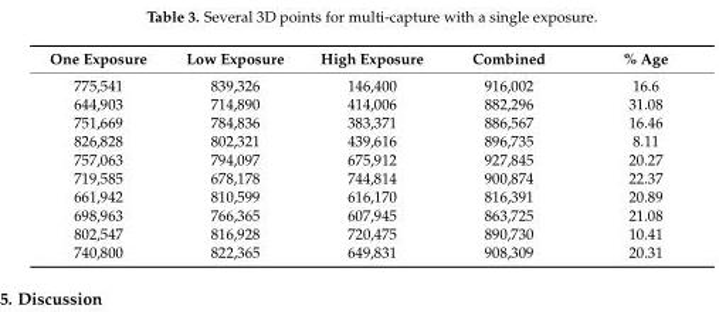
<table><thead><tr><td>One Exposure</td><td>Low Exposure</td><td>High Exposure</td><td>Combined</td><td>% Age</td></tr></thead><tbody><tr><td>775,541</td><td>839,326</td><td>146,400</td><td>916,002</td><td>16.6</td></tr><tr><td>644,903</td><td>714,890</td><td>414,006</td><td>882,296</td><td>31.08</td></tr><tr><td>751,669</td><td>784,836</td><td>383,371</td><td>886,567</td><td>16.46</td></tr><tr><td>826,828</td><td>802,321</td><td>439,616</td><td>896,735</td><td>8.11</td></tr><tr><td>757,063</td><td>794,097</td><td>675,912</td><td>927,845</td><td>20.27</td></tr><tr><td>719,585</td><td>678,178</td><td>744,814</td><td>900,874</td><td>22.37</td></tr><tr><td>661,942</td><td>810,599</td><td>616,170</td><td>816,391</td><td>20.89</td></tr><tr><td>698,963</td><td>766,365</td><td>607,945</td><td>863,725</td><td>21.08</td></tr><tr><td>802,547</td><td>816,928</td><td>720,475</td><td>890,730</td><td>10.41</td></tr><tr><td>740,800</td><td>822,365</td><td>649,831</td><td>908,309</td><td>20.31</td></tr></tbody></table>